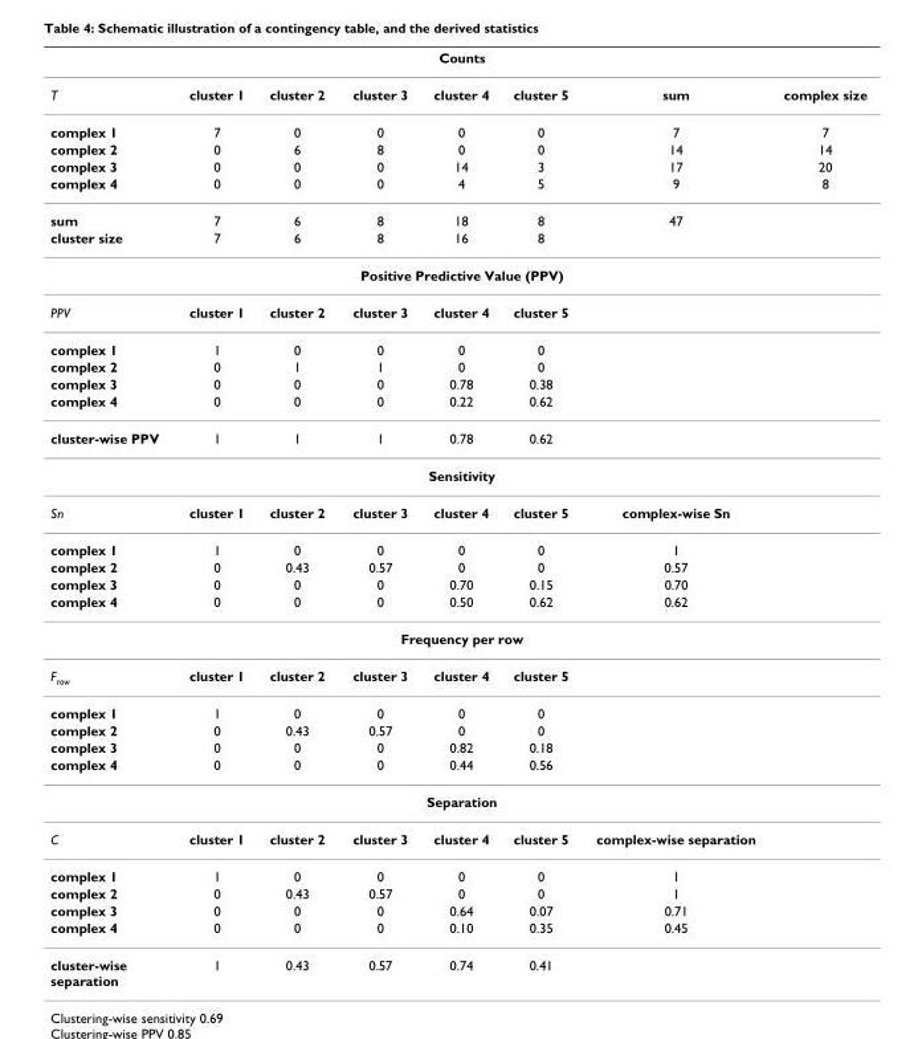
<table><thead><tr><td colspan="8">Counts</td></tr><tr><td>T</td><td>cluster 1</td><td>cluster 2</td><td>cluster 3</td><td>cluster 4</td><td>cluster 5</td><td>sum</td><td>complex size</td></tr></thead><tbody><tr><td>complex 1</td><td>7</td><td>0</td><td>0</td><td>0</td><td>0</td><td>7</td><td>7</td></tr><tr><td>complex 2</td><td>0</td><td>6</td><td>8</td><td>0</td><td>0</td><td>14</td><td>14</td></tr><tr><td>complex 3</td><td>0</td><td>0</td><td>0</td><td>14</td><td>3</td><td>17</td><td>20</td></tr><tr><td>complex 4</td><td>0</td><td>0</td><td>0</td><td>4</td><td>5</td><td>9</td><td>8</td></tr><tr><td>sum</td><td>7</td><td>6</td><td>8</td><td>18</td><td>8</td><td>47</td><td></td></tr><tr><td>cluster size</td><td>7</td><td>6</td><td>8</td><td>16</td><td>8</td><td></td><td></td></tr><tr><td colspan="8">Positive Predictive Value (PPV)</td></tr><tr><td>PPV</td><td>cluster 1</td><td>cluster 2</td><td>cluster 3</td><td>cluster 4</td><td>cluster 5</td><td></td><td></td></tr><tr><td>complex 1</td><td>1</td><td>0</td><td>0</td><td>0</td><td>0</td><td></td><td></td></tr><tr><td>complex 2</td><td>0</td><td>1</td><td>1</td><td>0</td><td>0</td><td></td><td></td></tr><tr><td>complex 3</td><td>0</td><td>0</td><td>0</td><td>0.78</td><td>0.38</td><td></td><td></td></tr><tr><td>complex 4</td><td>0</td><td>0</td><td>0</td><td>0.22</td><td>0.62</td><td></td><td></td></tr><tr><td>cluster-wise PPV</td><td>1</td><td>1</td><td>1</td><td>0.78</td><td>0.62</td><td></td><td></td></tr><tr><td colspan="8">Sensitivity</td></tr><tr><td>Sn</td><td>cluster 1</td><td>cluster 2</td><td>cluster 3</td><td>cluster 4</td><td>cluster 5</td><td>complex-wise Sn</td><td></td></tr><tr><td>complex 1</td><td>1</td><td>0</td><td>0</td><td>0</td><td>0</td><td>1</td><td></td></tr><tr><td>complex 2</td><td>0</td><td>0.43</td><td>0.57</td><td>0</td><td>0</td><td>0.57</td><td></td></tr><tr><td>complex 3</td><td>0</td><td>0</td><td>0</td><td>0.70</td><td>0.15</td><td>0.70</td><td></td></tr><tr><td>complex 4</td><td>0</td><td>0</td><td>0</td><td>0.50</td><td>0.62</td><td>0.62</td><td></td></tr><tr><td colspan="8">Frequency per row</td></tr><tr><td>Frow</td><td>cluster 1</td><td>cluster 2</td><td>cluster 3</td><td>cluster 4</td><td>cluster 5</td><td></td><td></td></tr><tr><td>complex 1</td><td>1</td><td>0</td><td>0</td><td>0</td><td>0</td><td></td><td></td></tr><tr><td>complex 2</td><td>0</td><td>0.43</td><td>0.57</td><td>0</td><td>0</td><td></td><td></td></tr><tr><td>complex 3</td><td>0</td><td>0</td><td>0</td><td>0.82</td><td>0.18</td><td></td><td></td></tr><tr><td>complex 4</td><td>0</td><td>0</td><td>0</td><td>0.44</td><td>0.56</td><td></td><td></td></tr><tr><td colspan="8">Separation</td></tr><tr><td>C</td><td>cluster 1</td><td>cluster 2</td><td>cluster 3</td><td>cluster 4</td><td>cluster 5</td><td>complex-wise separation</td><td></td></tr><tr><td>complex 1</td><td>1</td><td>0</td><td>0</td><td>0</td><td>0</td><td>1</td><td></td></tr><tr><td>complex 2</td><td>0</td><td>0.43</td><td>0.57</td><td>0</td><td>0</td><td>1</td><td></td></tr><tr><td>complex 3</td><td>0</td><td>0</td><td>0</td><td>0.64</td><td>0.07</td><td>0.71</td><td></td></tr><tr><td>complex 4</td><td>0</td><td>0</td><td>0</td><td>0.10</td><td>0.35</td><td>0.45</td><td></td></tr><tr><td>cluster-wise separation</td><td>1</td><td>0.43</td><td>0.57</td><td>0.74</td><td>0.41</td><td></td><td></td></tr></tbody></table>